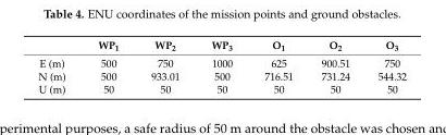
<table><thead><tr><td></td><td>WP<sub>1</sub></td><td>WP<sub>2</sub></td><td>WP<sub>3</sub></td><td>O<sub>1</sub></td><td>O<sub>2</sub></td><td>O<sub>3</sub></td></tr></thead><tbody><tr><td>E (m)</td><td>500</td><td>750</td><td>1000</td><td>625</td><td>900.51</td><td>750</td></tr><tr><td>N (m)</td><td>500</td><td>933.01</td><td>500</td><td>716.51</td><td>731.24</td><td>544.32</td></tr><tr><td>U (m)</td><td>50</td><td>50</td><td>50</td><td>50</td><td>50</td><td>50</td></tr></tbody></table>